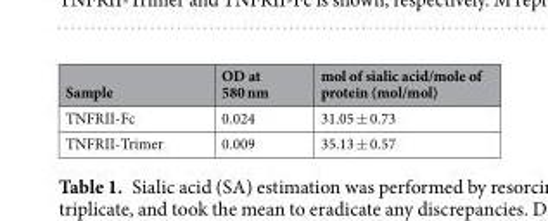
<table><thead><tr><td>Sample</td><td>OD at 580 nm</td><td>mol of sialic acid/mole of protein (mol/mol)</td></tr></thead><tbody><tr><td>TNFRII-Fc</td><td>0.024</td><td>31.05 ± 0.73</td></tr><tr><td>TNFRII-Trimer</td><td>0.009</td><td>35.13 ± 0.57</td></tr></tbody></table>